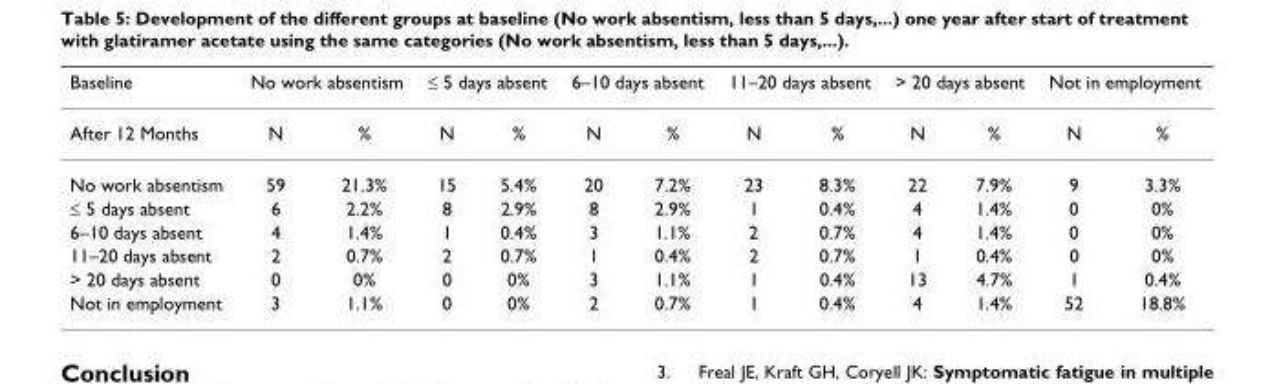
<table><thead><tr><td rowspan="2">Baseline After 12 Months</td><td colspan="2">No work absentism</td><td colspan="2">≤ 5 days absent</td><td colspan="2">6–10 days absent</td><td colspan="2">11–20 days absent</td><td colspan="2">&gt; 20 days absent</td><td colspan="2">Not in employment</td></tr><tr><td>N</td><td>%</td><td>N</td><td>%</td><td>N</td><td>%</td><td>N</td><td>%</td><td>N</td><td>%</td><td>N</td><td>%</td></tr></thead><tbody><tr><td>No work absentism</td><td>59</td><td>21.3%</td><td>15</td><td>5.4%</td><td>20</td><td>7.2%</td><td>23</td><td>8.3%</td><td>22</td><td>7.9%</td><td>9</td><td>3.3%</td></tr><tr><td>≤ 5 days absent</td><td>6</td><td>2.2%</td><td>8</td><td>2.9%</td><td>8</td><td>2.9%</td><td>1</td><td>0.4%</td><td>4</td><td>1.4%</td><td>0</td><td>0%</td></tr><tr><td>6–10 days absent</td><td>4</td><td>1.4%</td><td>1</td><td>0.4%</td><td>3</td><td>1.1%</td><td>2</td><td>0.7%</td><td>4</td><td>1.4%</td><td>0</td><td>0%</td></tr><tr><td>11–20 days absent</td><td>2</td><td>0.7%</td><td>2</td><td>0.7%</td><td>1</td><td>0.4%</td><td>2</td><td>0.7%</td><td>1</td><td>0.4%</td><td>0</td><td>0%</td></tr><tr><td>&gt; 20 days absent</td><td>0</td><td>0%</td><td>0</td><td>0%</td><td>3</td><td>1.1%</td><td>1</td><td>0.4%</td><td>13</td><td>4.7%</td><td>1</td><td>0.4%</td></tr><tr><td>Not in employment</td><td>3</td><td>1.1%</td><td>0</td><td>0%</td><td>2</td><td>0.7%</td><td>1</td><td>0.4%</td><td>4</td><td>1.4%</td><td>52</td><td>18.8%</td></tr></tbody></table>